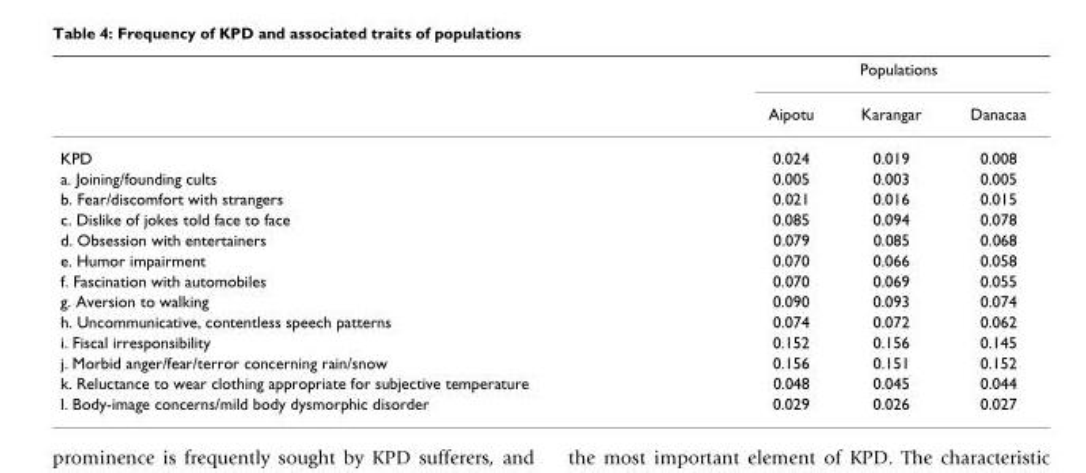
<table><thead><tr><td rowspan="2"></td><td colspan="3">Populations</td></tr><tr><td>Aipotu</td><td>Karangar</td><td>Danacaa</td></tr></thead><tbody><tr><td>KPD</td><td>0.024</td><td>0.019</td><td>0.008</td></tr><tr><td>a. Joining/founding cults</td><td>0.005</td><td>0.003</td><td>0.005</td></tr><tr><td>b. Fear/discomfort with strangers</td><td>0.021</td><td>0.016</td><td>0.015</td></tr><tr><td>c. Dislike of jokes told face to face</td><td>0.085</td><td>0.094</td><td>0.078</td></tr><tr><td>d. Obsession with entertainers</td><td>0.079</td><td>0.085</td><td>0.068</td></tr><tr><td>e. Humor impairment</td><td>0.070</td><td>0.066</td><td>0.058</td></tr><tr><td>f. Fascination with automobiles</td><td>0.070</td><td>0.069</td><td>0.055</td></tr><tr><td>g. Aversion to walking</td><td>0.090</td><td>0.093</td><td>0.074</td></tr><tr><td>h. Uncommunicative, contentless speech patterns</td><td>0.074</td><td>0.072</td><td>0.062</td></tr><tr><td>i. Fiscal irresponsibility</td><td>0.152</td><td>0.156</td><td>0.145</td></tr><tr><td>j. Morbid anger/fear/terror concerning rain/snow</td><td>0.156</td><td>0.151</td><td>0.152</td></tr><tr><td>k. Reluctance to wear clothing appropriate for subjective temperature</td><td>0.048</td><td>0.045</td><td>0.044</td></tr><tr><td>l. Body-image concerns/mild body dysmorphic disorder</td><td>0.029</td><td>0.026</td><td>0.027</td></tr></tbody></table>